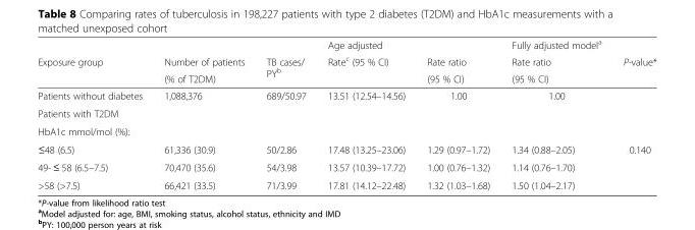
<table><thead><tr><td rowspan="3">Exposure group</td><td rowspan="3">Number of patients (% of T2DM)</td><td rowspan="3">TB cases/ PY<sup>b</sup></td><td rowspan="3">Age adjusted Rate<sup>c</sup> (95 % CI)</td><td rowspan="3">Rate ratio (95 % CI)</td><td rowspan="3">Fully adjusted model<sup>a</sup> Rate ratio (95 % CI)</td><td rowspan="3">P-value*</td></tr><tr></tr><tr></tr></thead><tbody><tr><td>Patients without diabetes</td><td>1,088,376</td><td>689/50.97</td><td>13.51 (12.54–14.56)</td><td>1.00</td><td>1.00</td><td></td></tr><tr><td colspan="7">Patients with T2DM</td></tr><tr><td colspan="7">HbA1c mmol/mol (%):</td></tr><tr><td>≤48 (6.5)</td><td>61,336 (30.9)</td><td>50/2.86</td><td>17.48 (13.25–23.06)</td><td>1.29 (0.97–1.72)</td><td>1.34 (0.88–2.05)</td><td>0.140</td></tr><tr><td>49- ≤ 58 (6.5–7.5)</td><td>70,470 (35.6)</td><td>54/3.98</td><td>13.57 (10.39–17.72)</td><td>1.00 (0.76–1.32)</td><td>1.14 (0.76–1.70)</td><td></td></tr><tr><td>&gt;58 (&gt;7.5)</td><td>66,421 (33.5)</td><td>71/3.99</td><td>17.81 (14.12–22.48)</td><td>1.32 (1.03–1.68)</td><td>1.50 (1.04–2.17)</td><td></td></tr></tbody></table>